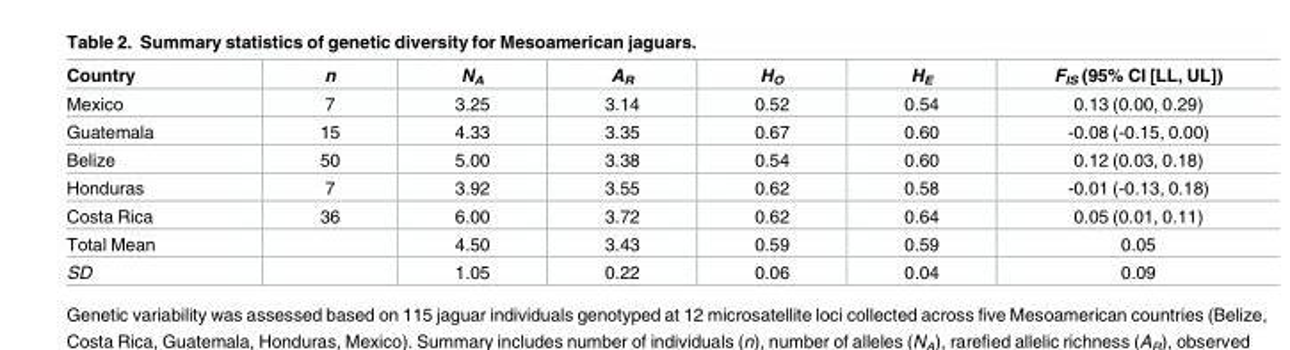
<table><thead><tr><td>Country</td><td>n</td><td>N<sub>A</sub></td><td>A<sub>R</sub></td><td>H<sub>O</sub></td><td>H<sub>E</sub></td><td>F<sub>IS</sub> (95% CI [LL, UL])</td></tr></thead><tbody><tr><td>Mexico</td><td>7</td><td>3.25</td><td>3.14</td><td>0.52</td><td>0.54</td><td>0.13 (0.00, 0.29)</td></tr><tr><td>Guatemala</td><td>15</td><td>4.33</td><td>3.35</td><td>0.67</td><td>0.60</td><td>-0.08 (-0.15, 0.00)</td></tr><tr><td>Belize</td><td>50</td><td>5.00</td><td>3.38</td><td>0.54</td><td>0.60</td><td>0.12 (0.03, 0.18)</td></tr><tr><td>Honduras</td><td>7</td><td>3.92</td><td>3.55</td><td>0.62</td><td>0.58</td><td>-0.01 (-0.13, 0.18)</td></tr><tr><td>Costa Rica</td><td>36</td><td>6.00</td><td>3.72</td><td>0.62</td><td>0.64</td><td>0.05 (0.01, 0.11)</td></tr><tr><td>Total Mean</td><td></td><td>4.50</td><td>3.43</td><td>0.59</td><td>0.59</td><td>0.05</td></tr><tr><td>SD</td><td></td><td>1.05</td><td>0.22</td><td>0.06</td><td>0.04</td><td>0.09</td></tr></tbody></table>